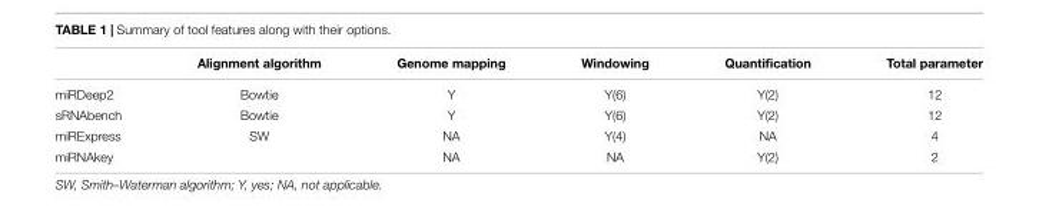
<table><thead><tr><td></td><td>Alignment algorithm</td><td>Genome mapping</td><td>Windowing</td><td>Quantification</td><td>Total parameter</td></tr></thead><tbody><tr><td>miRDeep2</td><td>Bowtie</td><td>Y</td><td>Y(6)</td><td>Y(2)</td><td>12</td></tr><tr><td>sRNAbench</td><td>Bowtie</td><td>Y</td><td>Y(6)</td><td>Y(2)</td><td>12</td></tr><tr><td>miRExpress</td><td>SW</td><td>NA</td><td>Y(4)</td><td>NA</td><td>4</td></tr><tr><td>miRNAkey</td><td></td><td>NA</td><td>NA</td><td>Y(2)</td><td>2</td></tr></tbody></table>